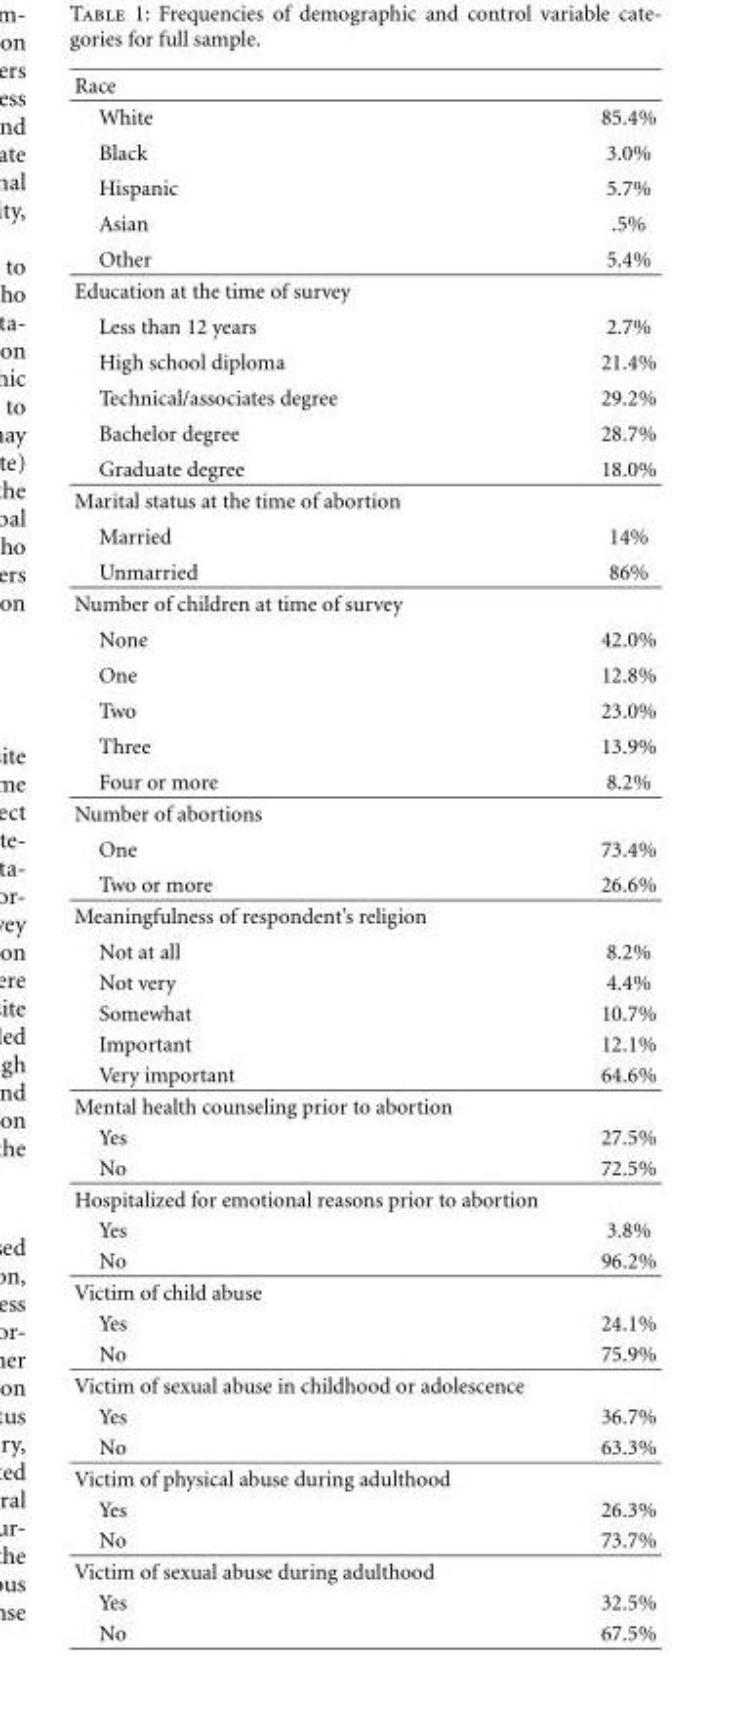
<table><thead><tr><td>Race</td><td></td></tr></thead><tbody><tr><td>White</td><td>85.4%</td></tr><tr><td>Black</td><td>3.0%</td></tr><tr><td>Hispanic</td><td>5.7%</td></tr><tr><td>Asian</td><td>.5%</td></tr><tr><td>Other</td><td>5.4%</td></tr><tr><td colspan="2">Education at the time of survey</td></tr><tr><td>Less than 12 years</td><td>2.7%</td></tr><tr><td>High school diploma</td><td>21.4%</td></tr><tr><td>Technical/associates degree</td><td>29.2%</td></tr><tr><td>Bachelor degree</td><td>28.7%</td></tr><tr><td>Graduate degree</td><td>18.0%</td></tr><tr><td colspan="2">Marital status at the time of abortion</td></tr><tr><td>Married</td><td>14%</td></tr><tr><td>Unmarried</td><td>86%</td></tr><tr><td colspan="2">Number of children at time of survey</td></tr><tr><td>None</td><td>42.0%</td></tr><tr><td>One</td><td>12.8%</td></tr><tr><td>Two</td><td>23.0%</td></tr><tr><td>Three</td><td>13.9%</td></tr><tr><td>Four or more</td><td>8.2%</td></tr><tr><td colspan="2">Number of abortions</td></tr><tr><td>One</td><td>73.4%</td></tr><tr><td>Two or more</td><td>26.6%</td></tr><tr><td colspan="2">Meaningfulness of respondent’s religion</td></tr><tr><td>Not at all</td><td>8.2%</td></tr><tr><td>Not very</td><td>4.4%</td></tr><tr><td>Somewhat</td><td>10.7%</td></tr><tr><td>Important</td><td>12.1%</td></tr><tr><td>Very important</td><td>64.6%</td></tr><tr><td colspan="2">Mental health counseling prior to abortion</td></tr><tr><td>Yes</td><td>27.5%</td></tr><tr><td>No</td><td>72.5%</td></tr><tr><td colspan="2">Hospitalized for emotional reasons prior to abortion</td></tr><tr><td>Yes</td><td>3.8%</td></tr><tr><td>No</td><td>96.2%</td></tr><tr><td colspan="2">Victim of child abuse</td></tr><tr><td>Yes</td><td>24.1%</td></tr><tr><td>No</td><td>75.9%</td></tr><tr><td colspan="2">Victim of sexual abuse in childhood or adolescence</td></tr><tr><td>Yes</td><td>36.7%</td></tr><tr><td>No</td><td>63.3%</td></tr><tr><td colspan="2">Victim of physical abuse during adulthood</td></tr><tr><td>Yes</td><td>26.3%</td></tr><tr><td>No</td><td>73.7%</td></tr><tr><td colspan="2">Victim of sexual abuse during adulthood</td></tr><tr><td>Yes</td><td>32.5%</td></tr><tr><td>No</td><td>67.5%</td></tr></tbody></table>